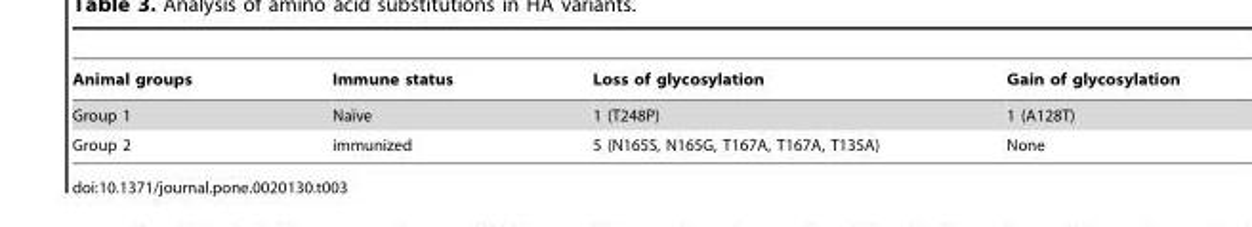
<table><thead><tr><td>Animal groups</td><td>Immune status</td><td>Loss of glycosylation</td><td>Gain of glycosylation</td></tr></thead><tbody><tr><td>Group 1</td><td>Naı¨ve</td><td>1 (T248P)</td><td>1 (A128T)</td></tr><tr><td>Group 2</td><td>immunized</td><td>5 (N165S, N165G, T167A, T167A, T135A)</td><td>None</td></tr></tbody></table>